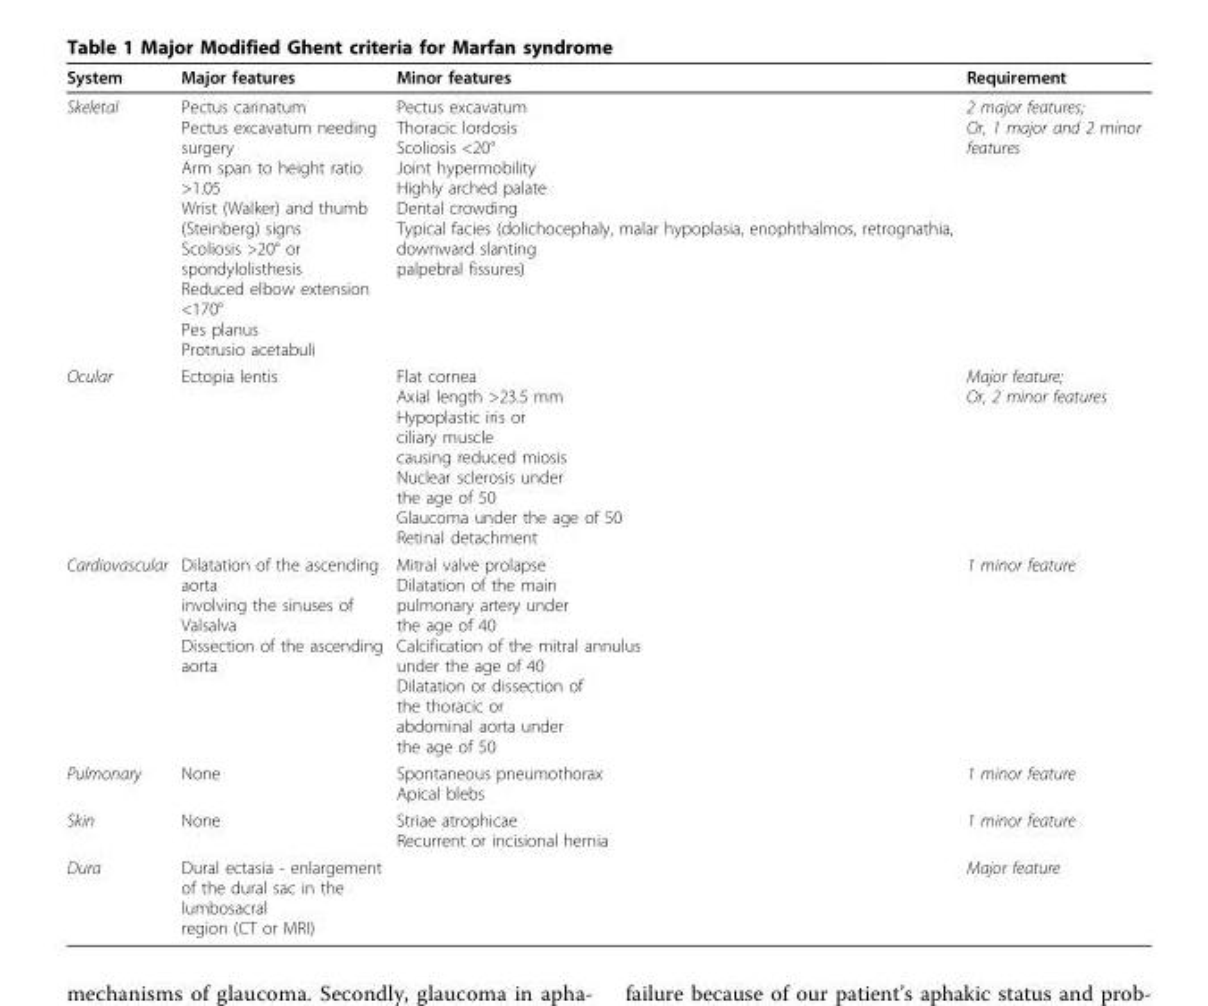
<table><thead><tr><td>System</td><td>Major features</td><td>Minor features</td><td>Requirement</td></tr></thead><tbody><tr><td>Skeletal</td><td>Pectus carinatum Pectus excavatum needing surgery Arm span to height ratio &gt;1.05 Wrist (Walker) and thumb (Steinberg) signs Scoliosis &gt;20° or spondylolisthesis Reduced elbow extension &lt;170° Pes planus Protrusio acetabuli</td><td>Pectus excavatum Thoracic lordosis Scoliosis &lt;20° Joint hypermobility Highly arched palate Dental crowding Typical facies (dolichocephaly, malar hypoplasia, enophthalmos, retrognathia, downward slanting palpebral fissures)</td><td>2 major features; Or, 1 major and 2 minor features</td></tr><tr><td>Ocular</td><td>Ectopia lentis</td><td>Flat cornea Axial length &gt;23.5 mm Hypoplastic iris or ciliary muscle causing reduced miosis Nuclear sclerosis under the age of 50 Glaucoma under the age of 50 Retinal detachment</td><td>Major feature; Or, 2 minor features</td></tr><tr><td>Cardiovascular</td><td>Dilatation of the ascending aorta involving the sinuses of Valsalva Dissection of the ascending aorta</td><td>Mitral valve prolapse Dilatation of the main pulmonary artery under the age of 40 Calcification of the mitral annulus under the age of 40 Dilatation or dissection of the thoracic or abdominal aorta under the age of 50</td><td>1 minor feature</td></tr><tr><td>Pulmonary</td><td>None</td><td>Spontaneous pneumothorax Apical blebs</td><td>1 minor feature</td></tr><tr><td>Skin</td><td>None</td><td>Striae atrophicae Recurrent or incisional hernia</td><td>1 minor feature</td></tr><tr><td>Dura</td><td>Dural ectasia - enlargement of the dural sac in the lumbosacral region (CT or MRI)</td><td></td><td>Major feature</td></tr></tbody></table>